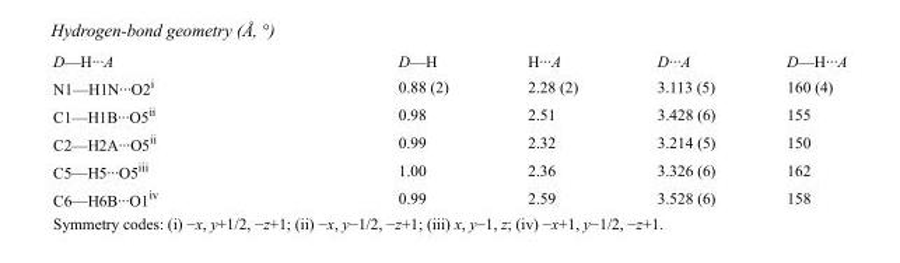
<table><tbody><tr><td>D—H···A</td><td>D—H</td><td>H···A</td><td>D···A</td><td>D—H···A</td></tr><tr><td>N1—H1N···O2<sup>i</sup></td><td>0.88 (2)</td><td>2.28 (2)</td><td>3.113 (5)</td><td>160 (4)</td></tr><tr><td>C1—H1B···O5<sup>ii</sup></td><td>0.98</td><td>2.51</td><td>3.428 (6)</td><td>155</td></tr><tr><td>C2—H2A···O5<sup>ii</sup></td><td>0.99</td><td>2.32</td><td>3.214 (5)</td><td>150</td></tr><tr><td>C5—H5···O5<sup>iii</sup></td><td>1.00</td><td>2.36</td><td>3.326 (6)</td><td>162</td></tr><tr><td>C6—H6B···O1<sup>iv</sup></td><td>0.99</td><td>2.59</td><td>3.528 (6)</td><td>158</td></tr></tbody></table>